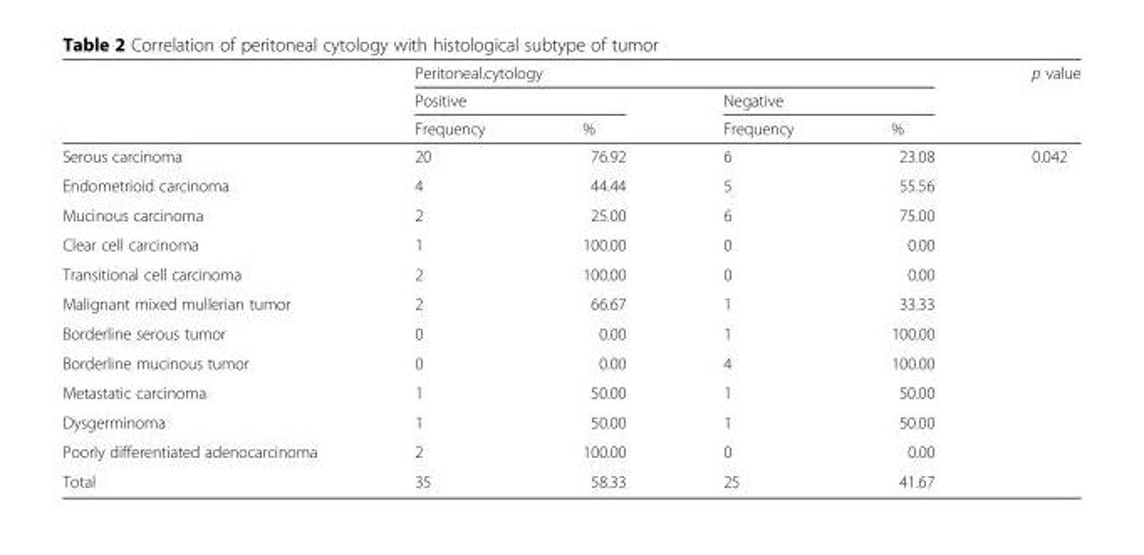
<table><thead><tr><td rowspan="3"></td><td colspan="4">Peritoneal.cytology</td><td rowspan="3">p value</td></tr><tr><td colspan="2">Positive</td><td colspan="2">Negative</td></tr><tr><td>Frequency</td><td>%</td><td>Frequency</td><td>%</td></tr></thead><tbody><tr><td>Serous carcinoma</td><td>20</td><td>76.92</td><td>6</td><td>23.08</td><td rowspan="12">0.042</td></tr><tr><td>Endometrioid carcinoma</td><td>4</td><td>44.44</td><td>5</td><td>55.56</td></tr><tr><td>Mucinous carcinoma</td><td>2</td><td>25.00</td><td>6</td><td>75.00</td></tr><tr><td>Clear cell carcinoma</td><td>1</td><td>100.00</td><td>0</td><td>0.00</td></tr><tr><td>Transitional cell carcinoma</td><td>2</td><td>100.00</td><td>0</td><td>0.00</td></tr><tr><td>Malignant mixed mullerian tumor</td><td>2</td><td>66.67</td><td>1</td><td>33.33</td></tr><tr><td>Borderline serous tumor</td><td>0</td><td>0.00</td><td>1</td><td>100.00</td></tr><tr><td>Borderline mucinous tumor</td><td>0</td><td>0.00</td><td>4</td><td>100.00</td></tr><tr><td>Metastatic carcinoma</td><td>1</td><td>50.00</td><td>1</td><td>50.00</td></tr><tr><td>Dysgerminoma</td><td>1</td><td>50.00</td><td>1</td><td>50.00</td></tr><tr><td>Poorly differentiated adenocarcinoma</td><td>2</td><td>100.00</td><td>0</td><td>0.00</td></tr><tr><td>Total</td><td>35</td><td>58.33</td><td>25</td><td>41.67</td></tr></tbody></table>